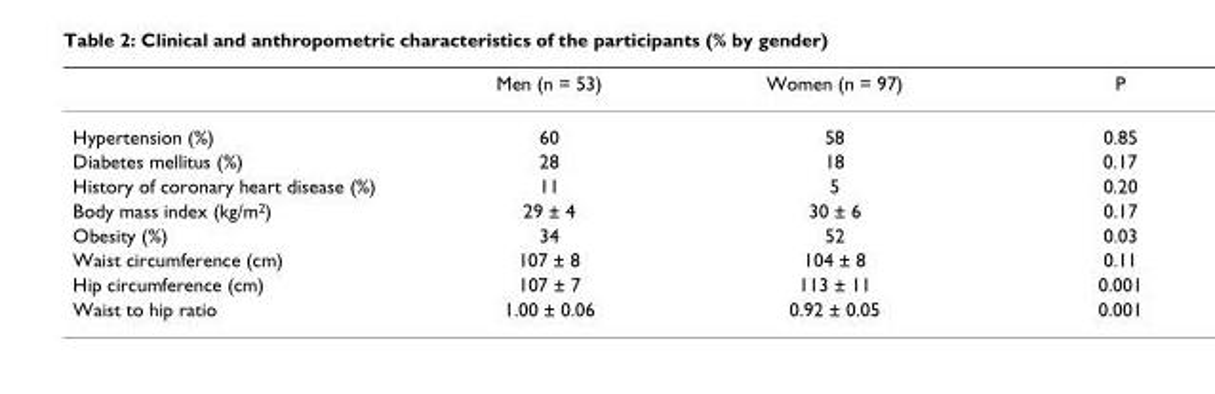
<table><thead><tr><td></td><td>Men (n = 53)</td><td>Women (n = 97)</td><td>P</td></tr></thead><tbody><tr><td>Hypertension (%)</td><td>60</td><td>58</td><td>0.85</td></tr><tr><td>Diabetes mellitus (%)</td><td>28</td><td>18</td><td>0.17</td></tr><tr><td>History of coronary heart disease (%)</td><td>11</td><td>5</td><td>0.20</td></tr><tr><td>Body mass index (kg/m<sup>2</sup>)</td><td>29 ± 4</td><td>30 ± 6</td><td>0.17</td></tr><tr><td>Obesity (%)</td><td>34</td><td>52</td><td>0.03</td></tr><tr><td>Waist circumference (cm)</td><td>107 ± 8</td><td>104 ± 8</td><td>0.11</td></tr><tr><td>Hip circumference (cm)</td><td>107 ± 7</td><td>113 ± 11</td><td>0.001</td></tr><tr><td>Waist to hip ratio</td><td>1.00 ± 0.06</td><td>0.92 ± 0.05</td><td>0.001</td></tr></tbody></table>